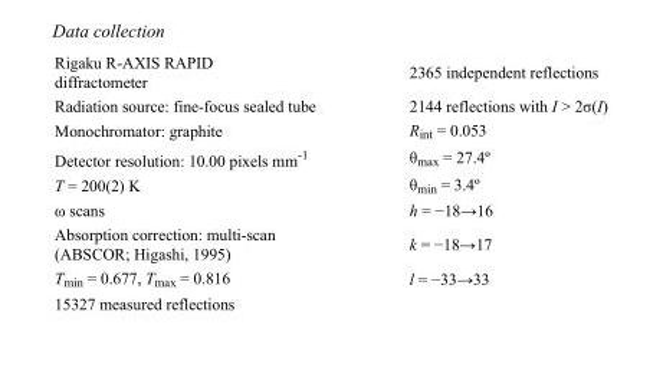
<table><tbody><tr><td>Rigaku R-AXIS RAPID diffractometer</td><td>2365 independent reflections</td></tr><tr><td>Radiation source: fine-focus sealed tube</td><td>2144 reflections with I &gt; 2σ(I)</td></tr><tr><td>Monochromator: graphite</td><td>R<sub>int</sub> = 0.053</td></tr><tr><td>Detector resolution: 10.00 pixels mm<sup>-1</sup></td><td>θ<sub>max</sub> = 27.4º</td></tr><tr><td>T = 200(2) K</td><td>θ<sub>min</sub> = 3.4º</td></tr><tr><td>ω scans</td><td>h = −18→16</td></tr><tr><td>Absorption correction: multi-scan (ABSCOR; Higashi, 1995)</td><td>k = −18→17</td></tr><tr><td>T<sub>min</sub> = 0.677, T<sub>max</sub> = 0.816</td><td>l = −33→33</td></tr><tr><td>15327 measured reflections</td><td></td></tr></tbody></table>